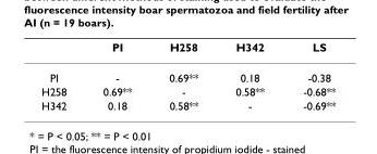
<table><thead><tr><td></td><td>PI</td><td>H258</td><td>H342</td><td>LS</td></tr></thead><tbody><tr><td>PI</td><td>-</td><td>0.69**</td><td>0.18</td><td>-0.38</td></tr><tr><td>H258</td><td>0.69**</td><td>-</td><td>0.58**</td><td>-0.68**</td></tr><tr><td>H342</td><td>0.18</td><td>0.58**</td><td>-</td><td>-0.69**</td></tr></tbody></table>